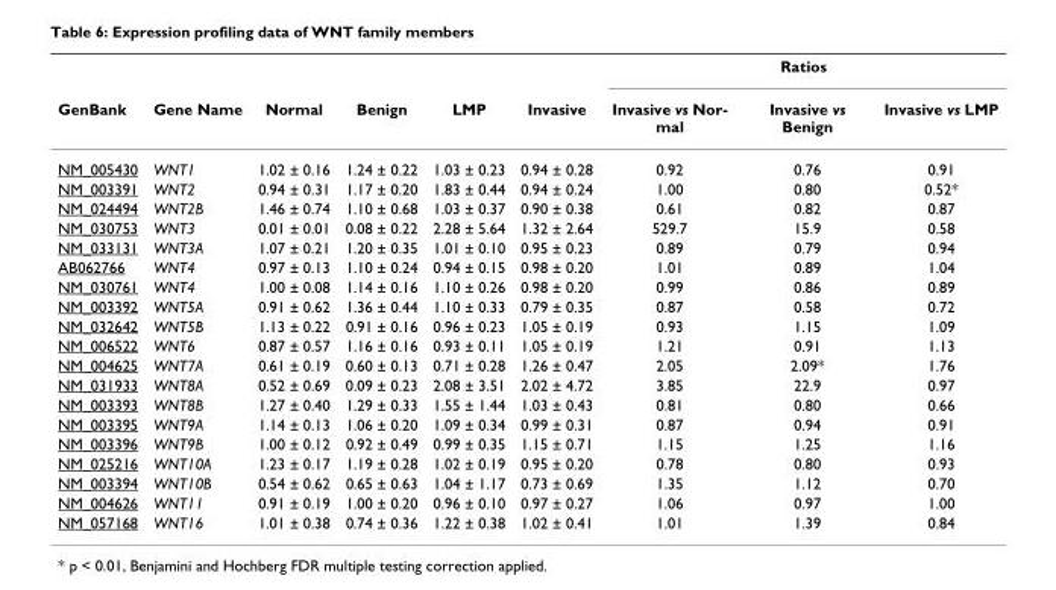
<table><thead><tr><td rowspan="2">GenBank</td><td rowspan="2">Gene Name</td><td rowspan="2">Normal</td><td rowspan="2">Benign</td><td rowspan="2">LMP</td><td rowspan="2">Invasive</td><td colspan="3">Ratios</td></tr><tr><td>Invasive vs Nor- mal</td><td>Invasive vs Benign</td><td>Invasive vs LMP</td></tr></thead><tbody><tr><td>NM_005430</td><td>WNT1</td><td>1.02 ± 0.16</td><td>1.24 ± 0.22</td><td>1.03 ± 0.23</td><td>0.94 ± 0.28</td><td>0.92</td><td>0.76</td><td>0.91</td></tr><tr><td>NM_003391</td><td>WNT2</td><td>0.94 ± 0.31</td><td>1.17 ± 0.20</td><td>1.83 ± 0.44</td><td>0.94 ± 0.24</td><td>1.00</td><td>0.80</td><td>0.52*</td></tr><tr><td>NM_024494</td><td>WNT2B</td><td>1.46 ± 0.74</td><td>1.10 ± 0.68</td><td>1.03 ± 0.37</td><td>0.90 ± 0.38</td><td>0.61</td><td>0.82</td><td>0.87</td></tr><tr><td>NM_030753</td><td>WNT3</td><td>0.01 ± 0.01</td><td>0.08 ± 0.22</td><td>2.28 ± 5.64</td><td>1.32 ± 2.64</td><td>529.7</td><td>15.9</td><td>0.58</td></tr><tr><td>NM_033131</td><td>WNT3A</td><td>1.07 ± 0.21</td><td>1.20 ± 0.35</td><td>1.01 ± 0.10</td><td>0.95 ± 0.23</td><td>0.89</td><td>0.79</td><td>0.94</td></tr><tr><td>AB062766</td><td>WNT4</td><td>0.97 ± 0.13</td><td>1.10 ± 0.24</td><td>0.94 ± 0.15</td><td>0.98 ± 0.20</td><td>1.01</td><td>0.89</td><td>1.04</td></tr><tr><td>NM_030761</td><td>WNT4</td><td>1.00 ± 0.08</td><td>1.14 ± 0.16</td><td>1.10 ± 0.26</td><td>0.98 ± 0.20</td><td>0.99</td><td>0.86</td><td>0.89</td></tr><tr><td>NM_003392</td><td>WNT5A</td><td>0.91 ± 0.62</td><td>1.36 ± 0.44</td><td>1.10 ± 0.33</td><td>0.79 ± 0.35</td><td>0.87</td><td>0.58</td><td>0.72</td></tr><tr><td>NM_032642</td><td>WNT5B</td><td>1.13 ± 0.22</td><td>0.91 ± 0.16</td><td>0.96 ± 0.23</td><td>1.05 ± 0.19</td><td>0.93</td><td>1.15</td><td>1.09</td></tr><tr><td>NM_006522</td><td>WNT6</td><td>0.87 ± 0.57</td><td>1.16 ± 0.16</td><td>0.93 ± 0.11</td><td>1.05 ± 0.19</td><td>1.21</td><td>0.91</td><td>1.13</td></tr><tr><td>NM_004625</td><td>WNT7A</td><td>0.61 ± 0.19</td><td>0.60 ± 0.13</td><td>0.71 ± 0.28</td><td>1.26 ± 0.47</td><td>2.05</td><td>2.09*</td><td>1.76</td></tr><tr><td>NM_031933</td><td>WNT8A</td><td>0.52 ± 0.69</td><td>0.09 ± 0.23</td><td>2.08 ± 3.51</td><td>2.02 ± 4.72</td><td>3.85</td><td>22.9</td><td>0.97</td></tr><tr><td>NM_003393</td><td>WNT8B</td><td>1.27 ± 0.40</td><td>1.29 ± 0.33</td><td>1.55 ± 1.44</td><td>1.03 ± 0.43</td><td>0.81</td><td>0.80</td><td>0.66</td></tr><tr><td>NM_003395</td><td>WNT9A</td><td>1.14 ± 0.13</td><td>1.06 ± 0.20</td><td>1.09 ± 0.34</td><td>0.99 ± 0.31</td><td>0.87</td><td>0.94</td><td>0.91</td></tr><tr><td>NM_003396</td><td>WNT9B</td><td>1.00 ± 0.12</td><td>0.92 ± 0.49</td><td>0.99 ± 0.35</td><td>1.15 ± 0.71</td><td>1.15</td><td>1.25</td><td>1.16</td></tr><tr><td>NM_025216</td><td>WNT10A</td><td>1.23 ± 0.17</td><td>1.19 ± 0.28</td><td>1.02 ± 0.19</td><td>0.95 ± 0.20</td><td>0.78</td><td>0.80</td><td>0.93</td></tr><tr><td>NM_003394</td><td>WNT10B</td><td>0.54 ± 0.62</td><td>0.65 ± 0.63</td><td>1.04 ± 1.17</td><td>0.73 ± 0.69</td><td>1.35</td><td>1.12</td><td>0.70</td></tr><tr><td>NM_004626</td><td>WNT11</td><td>0.91 ± 0.19</td><td>1.00 ± 0.20</td><td>0.96 ± 0.10</td><td>0.97 ± 0.27</td><td>1.06</td><td>0.97</td><td>1.00</td></tr><tr><td>NM_057168</td><td>WNT16</td><td>1.01 ± 0.38</td><td>0.74 ± 0.36</td><td>1.22 ± 0.38</td><td>1.02 ± 0.41</td><td>1.01</td><td>1.39</td><td>0.84</td></tr></tbody></table>